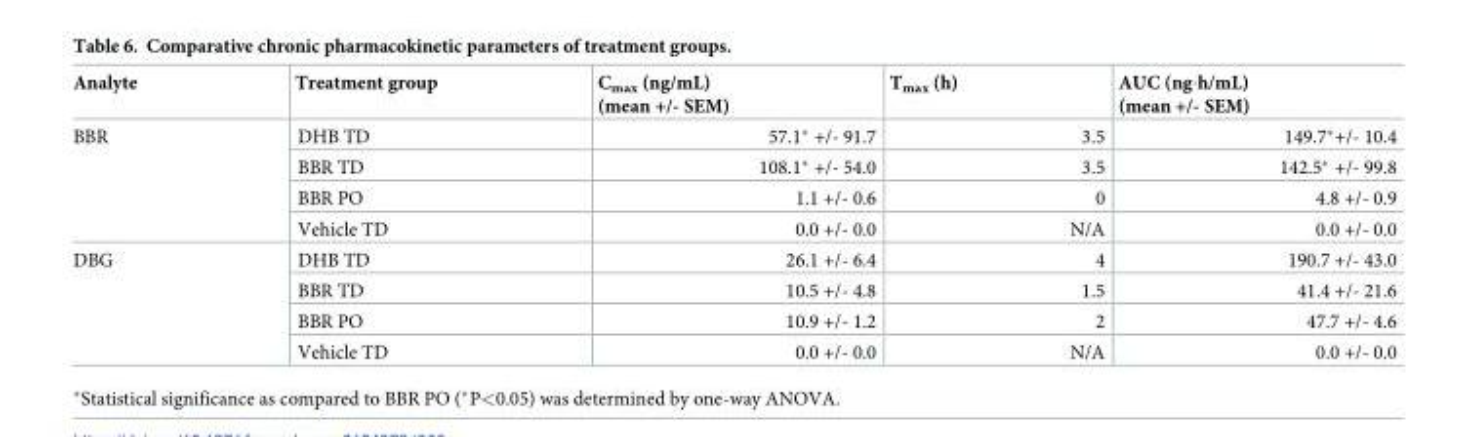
<table><thead><tr><td>Analyte</td><td>Treatment group</td><td>C<sub>max</sub> (ng/mL) (mean +/- SEM)</td><td>T<sub>max</sub> (h)</td><td>AUC (ng·h/mL) (mean +/- SEM)</td></tr></thead><tbody><tr><td rowspan="4">BBR</td><td>DHB TD</td><td>57.1* +/- 91.7</td><td>3.5</td><td>149.7*+/- 10.4</td></tr><tr><td>BBR TD</td><td>108.1* +/- 54.0</td><td>3.5</td><td>142.5* +/- 99.8</td></tr><tr><td>BBR PO</td><td>1.1 +/- 0.6</td><td>0</td><td>4.8 +/- 0.9</td></tr><tr><td>Vehicle TD</td><td>0.0 +/- 0.0</td><td>N/A</td><td>0.0 +/- 0.0</td></tr><tr><td rowspan="4">DBG</td><td>DHB TD</td><td>26.1 +/- 6.4</td><td>4</td><td>190.7 +/- 43.0</td></tr><tr><td>BBR TD</td><td>10.5 +/- 4.8</td><td>1.5</td><td>41.4 +/- 21.6</td></tr><tr><td>BBR PO</td><td>10.9 +/- 1.2</td><td>2</td><td>47.7 +/- 4.6</td></tr><tr><td>Vehicle TD</td><td>0.0 +/- 0.0</td><td>N/A</td><td>0.0 +/- 0.0</td></tr></tbody></table>